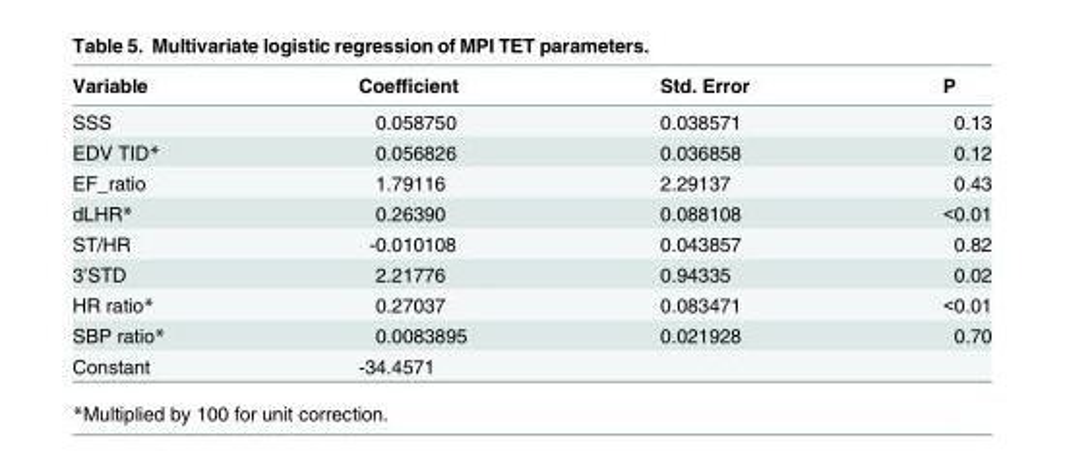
<table><thead><tr><td>Variable</td><td>Coefficient</td><td>Std. Error</td><td>P</td></tr></thead><tbody><tr><td>SSS</td><td>0.058750</td><td>0.038571</td><td>0.13</td></tr><tr><td>EDV TID*</td><td>0.056826</td><td>0.036858</td><td>0.12</td></tr><tr><td>EF_ratio</td><td>1.79116</td><td>2.29137</td><td>0.43</td></tr><tr><td>dLHR*</td><td>0.26390</td><td>0.088108</td><td>&lt;0.01</td></tr><tr><td>ST/HR</td><td>-0.010108</td><td>0.043857</td><td>0.82</td></tr><tr><td>3’STD</td><td>2.21776</td><td>0.94335</td><td>0.02</td></tr><tr><td>HR ratio*</td><td>0.27037</td><td>0.083471</td><td>&lt;0.01</td></tr><tr><td>SBP ratio*</td><td>0.0083895</td><td>0.021928</td><td>0.70</td></tr><tr><td>Constant</td><td>-34.4571</td><td></td><td></td></tr></tbody></table>